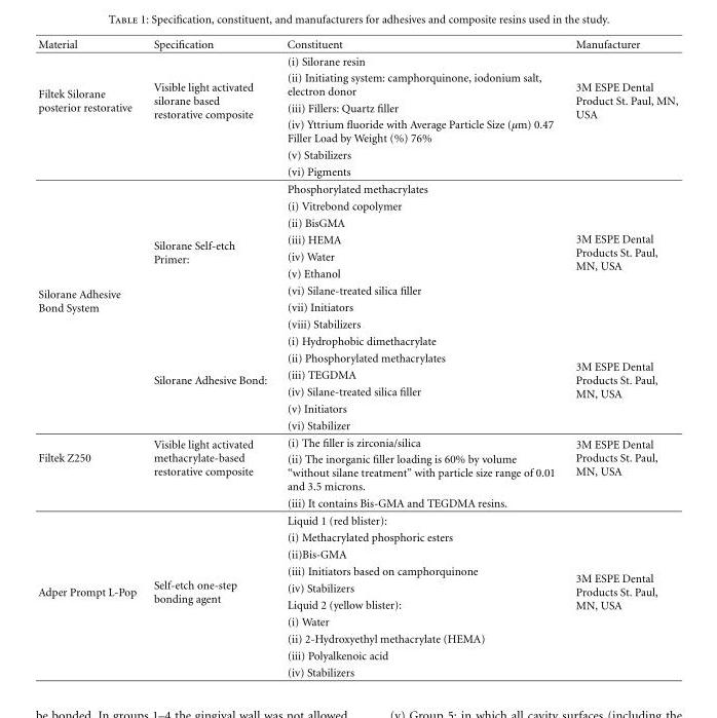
<table><thead><tr><td>Material</td><td>Specification</td><td>Constituent</td><td>Manufacturer</td></tr></thead><tbody><tr><td rowspan="6">Filtek Silorane posterior restorative</td><td rowspan="6">Visible light activated silorane based restorative composite</td><td>(i) Silorane resin</td><td rowspan="6">3M ESPE Dental Product St. Paul, MN, USA</td></tr><tr><td>(ii) Initiating system: camphorquinone, iodonium salt, electron donor</td></tr><tr><td>(iii) Fillers: Quartz filler</td></tr><tr><td>(iv) Yttrium fluoride with Average Particle Size (µm) 0.47 Filler Load by Weight (%) 76%</td></tr><tr><td>(v) Stabilizers</td></tr><tr><td>(vi) Pigments</td></tr><tr><td rowspan="15">Silorane Adhesive Bond System</td><td rowspan="9">Silorane Self-etch Primer:</td><td>Phosphorylated methacrylates</td><td rowspan="9">3M ESPE Dental Products St. Paul, MN, USA</td></tr><tr><td>(i) Vitrebond copolymer</td></tr><tr><td>(ii) BisGMA</td></tr><tr><td>(iii) HEMA</td></tr><tr><td>(iv) Water</td></tr><tr><td>(v) Ethanol</td></tr><tr><td>(vi) Silane-treated silica filler</td></tr><tr><td>(vii) Initiators</td></tr><tr><td>(viii) Stabilizers</td></tr><tr><td rowspan="6">Silorane Adhesive Bond:</td><td>(i) Hydrophobic dimethacrylate</td><td rowspan="6">3M ESPE Dental Products St. Paul, MN, USA</td></tr><tr><td>(ii) Phosphorylated methacrylates</td></tr><tr><td>(iii) TEGDMA</td></tr><tr><td>(iv) Silane-treated silica filler</td></tr><tr><td>(v) Initiators</td></tr><tr><td>(vi) Stabilizer</td></tr><tr><td rowspan="3">Filtek Z250</td><td rowspan="3">Visible light activated methacrylate-based restorative composite</td><td>(i) The filler is zirconia/silica</td><td rowspan="3">3M ESPE Dental Products St. Paul, MN, USA</td></tr><tr><td>(ii) The inorganic filler loading is 60% by volume “without silane treatment” with particle size range of 0.01 and 3.5 microns.</td></tr><tr><td>(iii) It contains Bis-GMA and TEGDMA resins.</td></tr><tr><td rowspan="10">Adper Prompt L-Pop</td><td rowspan="10">Self-etch one-step bonding agent</td><td>Liquid 1 (red blister):</td><td rowspan="10">3M ESPE Dental Products St. Paul, MN, USA</td></tr><tr><td>(i) Methacrylated phosphoric esters</td></tr><tr><td>(ii)Bis-GMA</td></tr><tr><td>(iii) Initiators based on camphorquinone</td></tr><tr><td>(iv) Stabilizers</td></tr><tr><td>Liquid 2 (yellow blister):</td></tr><tr><td>(i) Water</td></tr><tr><td>(ii) 2-Hydroxyethyl methacrylate (HEMA)</td></tr><tr><td>(iii) Polyalkenoic acid</td></tr><tr><td>(iv) Stabilizers</td></tr></tbody></table>